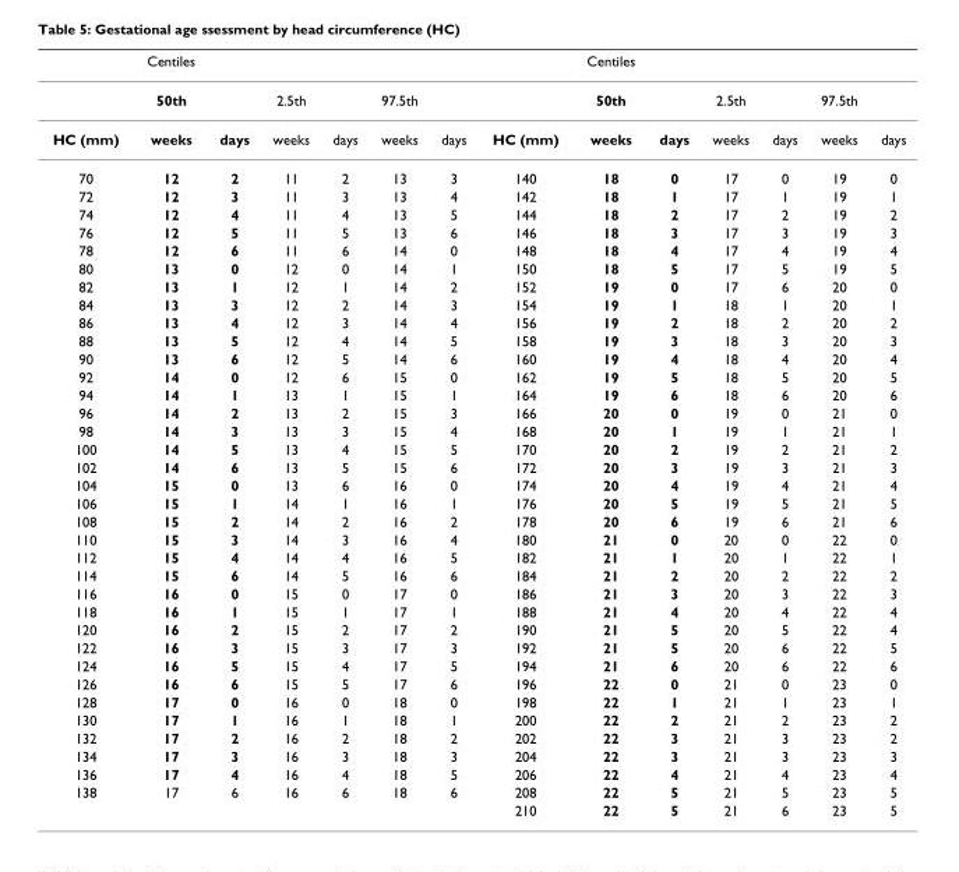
<table><thead><tr><td></td><td>Centiles</td><td></td><td></td><td></td><td></td><td></td><td></td><td>Centiles</td><td></td><td></td><td></td><td></td><td></td></tr></thead><tbody><tr><td></td><td>50th</td><td></td><td>2.5th</td><td></td><td>97.5th</td><td></td><td></td><td>50th</td><td></td><td>2.5th</td><td></td><td>97.5th</td><td></td></tr><tr><td>HC (mm)</td><td>weeks</td><td>days</td><td>weeks</td><td>days</td><td>weeks</td><td>days</td><td>HC (mm)</td><td>weeks</td><td>days</td><td>weeks</td><td>days</td><td>weeks</td><td>days</td></tr><tr><td>70</td><td>12</td><td>2</td><td>11</td><td>2</td><td>13</td><td>3</td><td>140</td><td>18</td><td>0</td><td>17</td><td>0</td><td>19</td><td>0</td></tr><tr><td>72</td><td>12</td><td>3</td><td>11</td><td>3</td><td>13</td><td>4</td><td>142</td><td>18</td><td>1</td><td>17</td><td>1</td><td>19</td><td>1</td></tr><tr><td>74</td><td>12</td><td>4</td><td>11</td><td>4</td><td>13</td><td>5</td><td>144</td><td>18</td><td>2</td><td>17</td><td>2</td><td>19</td><td>2</td></tr><tr><td>76</td><td>12</td><td>5</td><td>11</td><td>5</td><td>13</td><td>6</td><td>146</td><td>18</td><td>3</td><td>17</td><td>3</td><td>19</td><td>3</td></tr><tr><td>78</td><td>12</td><td>6</td><td>11</td><td>6</td><td>14</td><td>0</td><td>148</td><td>18</td><td>4</td><td>17</td><td>4</td><td>19</td><td>4</td></tr><tr><td>80</td><td>13</td><td>0</td><td>12</td><td>0</td><td>14</td><td>1</td><td>150</td><td>18</td><td>5</td><td>17</td><td>5</td><td>19</td><td>5</td></tr><tr><td>82</td><td>13</td><td>1</td><td>12</td><td>1</td><td>14</td><td>2</td><td>152</td><td>19</td><td>0</td><td>17</td><td>6</td><td>20</td><td>0</td></tr><tr><td>84</td><td>13</td><td>3</td><td>12</td><td>2</td><td>14</td><td>3</td><td>154</td><td>19</td><td>1</td><td>18</td><td>1</td><td>20</td><td>1</td></tr><tr><td>86</td><td>13</td><td>4</td><td>12</td><td>3</td><td>14</td><td>4</td><td>156</td><td>19</td><td>2</td><td>18</td><td>2</td><td>20</td><td>2</td></tr><tr><td>88</td><td>13</td><td>5</td><td>12</td><td>4</td><td>14</td><td>5</td><td>158</td><td>19</td><td>3</td><td>18</td><td>3</td><td>20</td><td>3</td></tr><tr><td>90</td><td>13</td><td>6</td><td>12</td><td>5</td><td>14</td><td>6</td><td>160</td><td>19</td><td>4</td><td>18</td><td>4</td><td>20</td><td>4</td></tr><tr><td>92</td><td>14</td><td>0</td><td>12</td><td>6</td><td>15</td><td>0</td><td>162</td><td>19</td><td>5</td><td>18</td><td>5</td><td>20</td><td>5</td></tr><tr><td>94</td><td>14</td><td>1</td><td>13</td><td>1</td><td>15</td><td>1</td><td>164</td><td>19</td><td>6</td><td>18</td><td>6</td><td>20</td><td>6</td></tr><tr><td>96</td><td>14</td><td>2</td><td>13</td><td>2</td><td>15</td><td>3</td><td>166</td><td>20</td><td>0</td><td>19</td><td>0</td><td>21</td><td>0</td></tr><tr><td>98</td><td>14</td><td>3</td><td>13</td><td>3</td><td>15</td><td>4</td><td>168</td><td>20</td><td>1</td><td>19</td><td>1</td><td>21</td><td>1</td></tr><tr><td>100</td><td>14</td><td>5</td><td>13</td><td>4</td><td>15</td><td>5</td><td>170</td><td>20</td><td>2</td><td>19</td><td>2</td><td>21</td><td>2</td></tr><tr><td>102</td><td>14</td><td>6</td><td>13</td><td>5</td><td>15</td><td>6</td><td>172</td><td>20</td><td>3</td><td>19</td><td>3</td><td>21</td><td>3</td></tr><tr><td>104</td><td>15</td><td>0</td><td>13</td><td>6</td><td>16</td><td>0</td><td>174</td><td>20</td><td>4</td><td>19</td><td>4</td><td>21</td><td>4</td></tr><tr><td>106</td><td>15</td><td>1</td><td>14</td><td>1</td><td>16</td><td>1</td><td>176</td><td>20</td><td>5</td><td>19</td><td>5</td><td>21</td><td>5</td></tr><tr><td>108</td><td>15</td><td>2</td><td>14</td><td>2</td><td>16</td><td>2</td><td>178</td><td>20</td><td>6</td><td>19</td><td>6</td><td>21</td><td>6</td></tr><tr><td>110</td><td>15</td><td>3</td><td>14</td><td>3</td><td>16</td><td>4</td><td>180</td><td>21</td><td>0</td><td>20</td><td>0</td><td>22</td><td>0</td></tr><tr><td>112</td><td>15</td><td>4</td><td>14</td><td>4</td><td>16</td><td>5</td><td>182</td><td>21</td><td>1</td><td>20</td><td>1</td><td>22</td><td>1</td></tr><tr><td>114</td><td>15</td><td>6</td><td>14</td><td>5</td><td>16</td><td>6</td><td>184</td><td>21</td><td>2</td><td>20</td><td>2</td><td>22</td><td>2</td></tr><tr><td>116</td><td>16</td><td>0</td><td>15</td><td>0</td><td>17</td><td>0</td><td>186</td><td>21</td><td>3</td><td>20</td><td>3</td><td>22</td><td>3</td></tr><tr><td>118</td><td>16</td><td>1</td><td>15</td><td>1</td><td>17</td><td>1</td><td>188</td><td>21</td><td>4</td><td>20</td><td>4</td><td>22</td><td>4</td></tr><tr><td>120</td><td>16</td><td>2</td><td>15</td><td>2</td><td>17</td><td>2</td><td>190</td><td>21</td><td>5</td><td>20</td><td>5</td><td>22</td><td>4</td></tr><tr><td>122</td><td>16</td><td>3</td><td>15</td><td>3</td><td>17</td><td>3</td><td>192</td><td>21</td><td>5</td><td>20</td><td>6</td><td>22</td><td>5</td></tr><tr><td>124</td><td>16</td><td>5</td><td>15</td><td>4</td><td>17</td><td>5</td><td>194</td><td>21</td><td>6</td><td>20</td><td>6</td><td>22</td><td>6</td></tr><tr><td>126</td><td>16</td><td>6</td><td>15</td><td>5</td><td>17</td><td>6</td><td>196</td><td>22</td><td>0</td><td>21</td><td>0</td><td>23</td><td>0</td></tr><tr><td>128</td><td>17</td><td>0</td><td>16</td><td>0</td><td>18</td><td>0</td><td>198</td><td>22</td><td>1</td><td>21</td><td>1</td><td>23</td><td>1</td></tr><tr><td>130</td><td>17</td><td>1</td><td>16</td><td>1</td><td>18</td><td>1</td><td>200</td><td>22</td><td>2</td><td>21</td><td>2</td><td>23</td><td>2</td></tr><tr><td>132</td><td>17</td><td>2</td><td>16</td><td>2</td><td>18</td><td>2</td><td>202</td><td>22</td><td>3</td><td>21</td><td>3</td><td>23</td><td>2</td></tr><tr><td>134</td><td>17</td><td>3</td><td>16</td><td>3</td><td>18</td><td>3</td><td>204</td><td>22</td><td>3</td><td>21</td><td>3</td><td>23</td><td>3</td></tr><tr><td>136</td><td>17</td><td>4</td><td>16</td><td>4</td><td>18</td><td>5</td><td>206</td><td>22</td><td>4</td><td>21</td><td>4</td><td>23</td><td>4</td></tr><tr><td rowspan="2">138</td><td>17</td><td>6</td><td>16</td><td>6</td><td>18</td><td>6</td><td>208</td><td>22</td><td>5</td><td>21</td><td>5</td><td>23</td><td>5</td></tr><tr><td></td><td></td><td></td><td></td><td></td><td></td><td>210</td><td>22</td><td>5</td><td>21</td><td>6</td><td>23</td><td>5</td></tr></tbody></table>